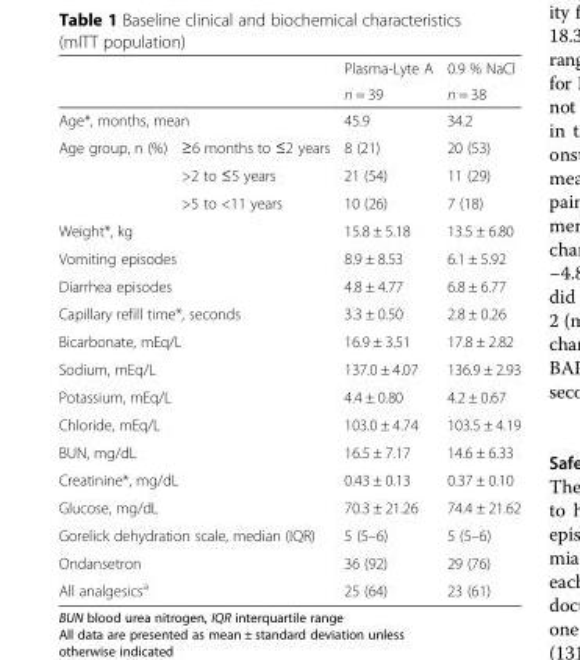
<table><thead><tr><td rowspan="2"></td><td rowspan="2"></td><td rowspan="2">Plasma-Lyte A n = 39</td><td rowspan="2">0.9 % NaCl n = 38</td></tr><tr></tr></thead><tbody><tr><td colspan="2">Age*, months, mean</td><td>45.9</td><td>34.2</td></tr><tr><td rowspan="3">Age group, n (%)</td><td>≥6 months to ≤2 years</td><td>8 (21)</td><td>20 (53)</td></tr><tr><td>&gt;2 to ≤5 years</td><td>21 (54)</td><td>11 (29)</td></tr><tr><td>&gt;5 to &lt;11 years</td><td>10 (26)</td><td>7 (18)</td></tr><tr><td colspan="2">Weight*, kg</td><td>15.8 ± 5.18</td><td>13.5 ± 6.80</td></tr><tr><td colspan="2">Vomiting episodes</td><td>8.9 ± 8.53</td><td>6.1 ± 5.92</td></tr><tr><td colspan="2">Diarrhea episodes</td><td>4.8 ± 4.77</td><td>6.8 ± 6.77</td></tr><tr><td colspan="2">Capillary refill time*, seconds</td><td>3.3 ± 0.50</td><td>2.8 ± 0.26</td></tr><tr><td colspan="2">Bicarbonate, mEq/L</td><td>16.9 ± 3.51</td><td>17.8 ± 2.82</td></tr><tr><td colspan="2">Sodium, mEq/L</td><td>137.0 ± 4.07</td><td>136.9 ± 2.93</td></tr><tr><td colspan="2">Potassium, mEq/L</td><td>4.4 ± 0.80</td><td>4.2 ± 0.67</td></tr><tr><td colspan="2">Chloride, mEq/L</td><td>103.0 ± 4.74</td><td>103.5 ± 4.19</td></tr><tr><td colspan="2">BUN, mg/dL</td><td>16.5 ± 7.17</td><td>14.6 ± 6.33</td></tr><tr><td colspan="2">Creatinine*, mg/dL</td><td>0.43 ± 0.13</td><td>0.37 ± 0.10</td></tr><tr><td colspan="2">Glucose, mg/dL</td><td>70.3 ± 21.26</td><td>74.4 ± 21.62</td></tr><tr><td colspan="2">Gorelick dehydration scale, median (IQR)</td><td>5 (5–6)</td><td>5 (5–6)</td></tr><tr><td colspan="2">Ondansetron</td><td>36 (92)</td><td>29 (76)</td></tr><tr><td colspan="2">All analgesics<sup>a</sup></td><td>25 (64)</td><td>23 (61)</td></tr></tbody></table>